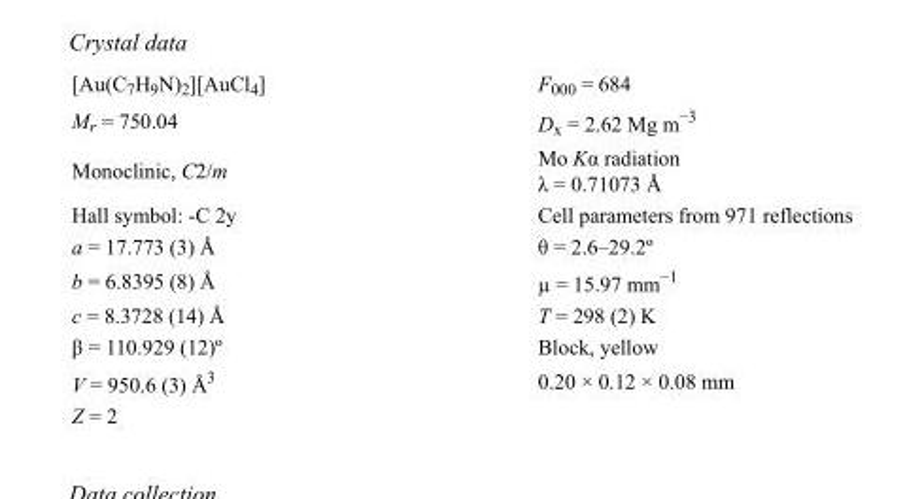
<table><tbody><tr><td>[Au(C<sub>7</sub>H<sub>9</sub>N)<sub>2</sub>][AuCl<sub>4</sub>]</td><td>F000 = 684</td></tr><tr><td>M<sub>r</sub> = 750.04</td><td>D<sub>x</sub> = 2.62 Mg m<sup>−3</sup></td></tr><tr><td>Monoclinic, C2/m</td><td>Mo Kα radiation λ = 0.71073 Å</td></tr><tr><td>Hall symbol: -C 2y</td><td>Cell parameters from 971 reflections</td></tr><tr><td>a = 17.773 (3) Å</td><td>θ = 2.6–29.2º</td></tr><tr><td>b = 6.8395 (8) Å</td><td>µ = 15.97 mm<sup>−1</sup></td></tr><tr><td>c = 8.3728 (14) Å</td><td>T = 298 (2) K</td></tr><tr><td>β = 110.929 (12)º</td><td>Block, yellow</td></tr><tr><td>V = 950.6 (3) Å<sup>3</sup></td><td>0.20 × 0.12 × 0.08 mm</td></tr><tr><td>Z = 2</td><td></td></tr></tbody></table>